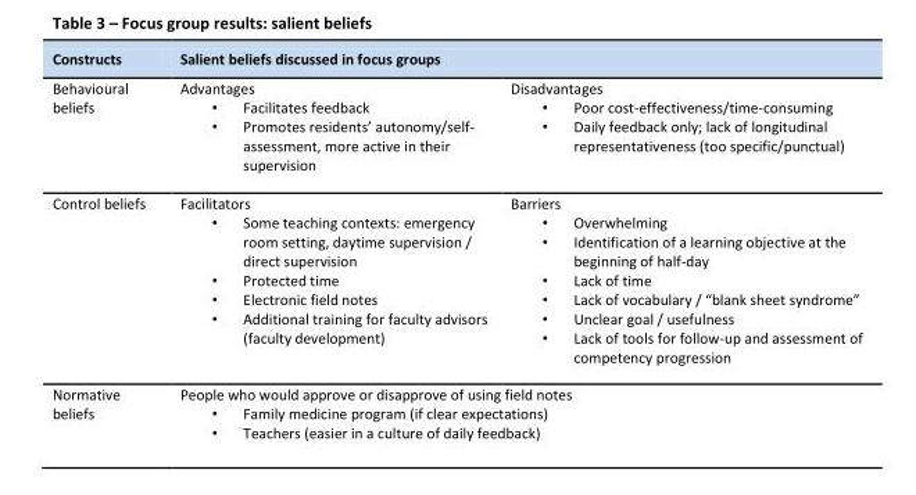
<table><thead><tr><td>Constructs</td><td>Salient beliefs discussed in focus groups</td><td></td></tr></thead><tbody><tr><td>Behavioural beliefs</td><td>Advantages • Facilitates feedback • Promotes residents’ autonomy/self- assessment, more active in their supervision</td><td>Disadvantages • Poor cost-effectiveness/time-consuming • Daily feedback only; lack of longitudinal representativeness (too specific/punctual)</td></tr><tr><td>Control beliefs</td><td>Facilitators • Some teaching contexts: emergency room setting, daytime supervision / direct supervision • Protected time • Electronic field notes • Additional training for faculty advisors (faculty development)</td><td>Barriers • Overwhelming • Identification of a learning objective at the beginning of half-day • Lack of time • Lack of vocabulary / “blank sheet syndrome” • Unclear goal / usefulness • Lack of tools for follow-up and assessment of competency progression</td></tr><tr><td>Normative beliefs</td><td colspan="2">People who would approve or disapprove of using field notes • Family medicine program (if clear expectations) • Teachers (easier in a culture of daily feedback)</td></tr></tbody></table>